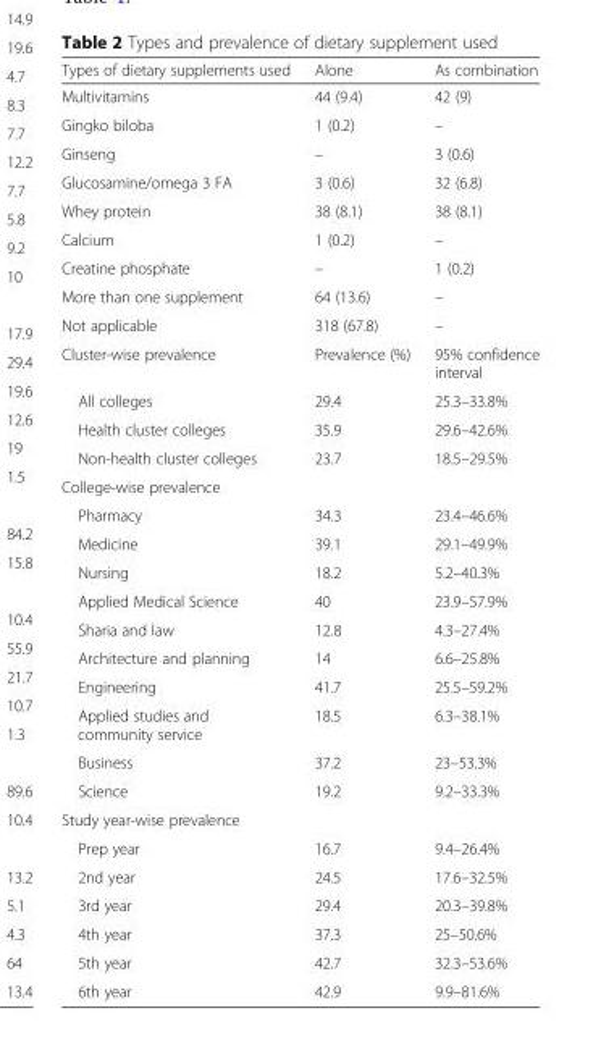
<table><thead><tr><td>Types of dietary supplements used</td><td>Alone</td><td>As combination</td></tr></thead><tbody><tr><td>Multivitamins</td><td>44 (9.4)</td><td>42 (9)</td></tr><tr><td>Gingko biloba</td><td>1 (0.2)</td><td>–</td></tr><tr><td>Ginseng</td><td>–</td><td>3 (0.6)</td></tr><tr><td>Glucosamine/omega 3 FA</td><td>3 (0.6)</td><td>32 (6.8)</td></tr><tr><td>Whey protein</td><td>38 (8.1)</td><td>38 (8.1)</td></tr><tr><td>Calcium</td><td>1 (0.2)</td><td>–</td></tr><tr><td>Creatine phosphate</td><td>–</td><td>1 (0.2)</td></tr><tr><td>More than one supplement</td><td>64 (13.6)</td><td>–</td></tr><tr><td>Not applicable</td><td>318 (67.8)</td><td>–</td></tr><tr><td>Cluster-wise prevalence</td><td>Prevalence (%)</td><td>95% confidence interval</td></tr><tr><td>All colleges</td><td>29.4</td><td>25.3–33.8%</td></tr><tr><td>Health cluster colleges</td><td>35.9</td><td>29.6–42.6%</td></tr><tr><td>Non-health cluster colleges</td><td>23.7</td><td>18.5–29.5%</td></tr><tr><td colspan="3">College-wise prevalence</td></tr><tr><td>Pharmacy</td><td>34.3</td><td>23.4–46.6%</td></tr><tr><td>Medicine</td><td>39.1</td><td>29.1–49.9%</td></tr><tr><td>Nursing</td><td>18.2</td><td>5.2–40.3%</td></tr><tr><td>Applied Medical Science</td><td>40</td><td>23.9–57.9%</td></tr><tr><td>Sharia and law</td><td>12.8</td><td>4.3–27.4%</td></tr><tr><td>Architecture and planning</td><td>14</td><td>6.6–25.8%</td></tr><tr><td>Engineering</td><td>41.7</td><td>25.5–59.2%</td></tr><tr><td>Applied studies and community service</td><td>18.5</td><td>6.3–38.1%</td></tr><tr><td>Business</td><td>37.2</td><td>23–53.3%</td></tr><tr><td>Science</td><td>19.2</td><td>9.2–33.3%</td></tr><tr><td colspan="3">Study year-wise prevalence</td></tr><tr><td>Prep year</td><td>16.7</td><td>9.4–26.4%</td></tr><tr><td>2nd year</td><td>24.5</td><td>17.6–32.5%</td></tr><tr><td>3rd year</td><td>29.4</td><td>20.3–39.8%</td></tr><tr><td>4th year</td><td>37.3</td><td>25–50.6%</td></tr><tr><td>5th year</td><td>42.7</td><td>32.3–53.6%</td></tr><tr><td>6th year</td><td>42.9</td><td>9.9–81.6%</td></tr></tbody></table>